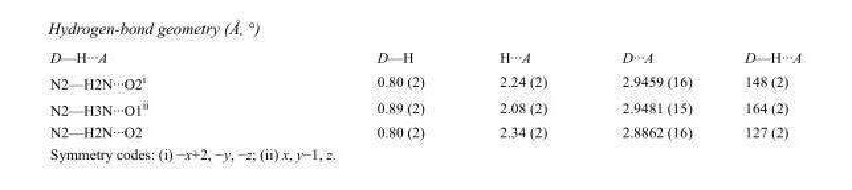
<table><tbody><tr><td>D—H···A</td><td>D—H</td><td>H···A</td><td>D···A</td><td>D—H···A</td></tr><tr><td>N2—H2N···O2<sup>i</sup></td><td>0.80 (2)</td><td>2.24 (2)</td><td>2.9459 (16)</td><td>148 (2)</td></tr><tr><td>N2—H3N···O1<sup>ii</sup></td><td>0.89 (2)</td><td>2.08 (2)</td><td>2.9481 (15)</td><td>164 (2)</td></tr><tr><td>N2—H2N···O2</td><td>0.80 (2)</td><td>2.34 (2)</td><td>2.8862 (16)</td><td>127 (2)</td></tr></tbody></table>